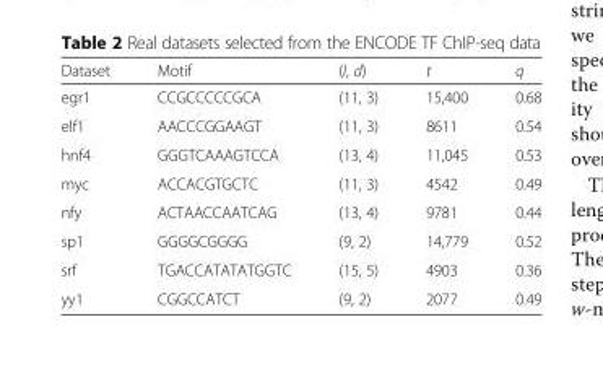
<table><thead><tr><td>Dataset</td><td>Motif</td><td>(l, d)</td><td>t</td><td>q</td></tr></thead><tbody><tr><td>egr1</td><td>CCGCCCCCGCA</td><td>(11, 3)</td><td>15,400</td><td>0.68</td></tr><tr><td>elf1</td><td>AACCCGGAAGT</td><td>(11, 3)</td><td>8611</td><td>0.54</td></tr><tr><td>hnf4</td><td>GGGTCAAAGTCCA</td><td>(13, 4)</td><td>11,045</td><td>0.53</td></tr><tr><td>myc</td><td>ACCACGTGCTC</td><td>(11, 3)</td><td>4542</td><td>0.49</td></tr><tr><td>nfy</td><td>ACTAACCAATCAG</td><td>(13, 4)</td><td>9781</td><td>0.44</td></tr><tr><td>sp1</td><td>GGGGCGGGG</td><td>(9, 2)</td><td>14,779</td><td>0.52</td></tr><tr><td>srf</td><td>TGACCATATATGGTC</td><td>(15, 5)</td><td>4903</td><td>0.36</td></tr><tr><td>yy1</td><td>CGGCCATCT</td><td>(9, 2)</td><td>2077</td><td>0.49</td></tr></tbody></table>